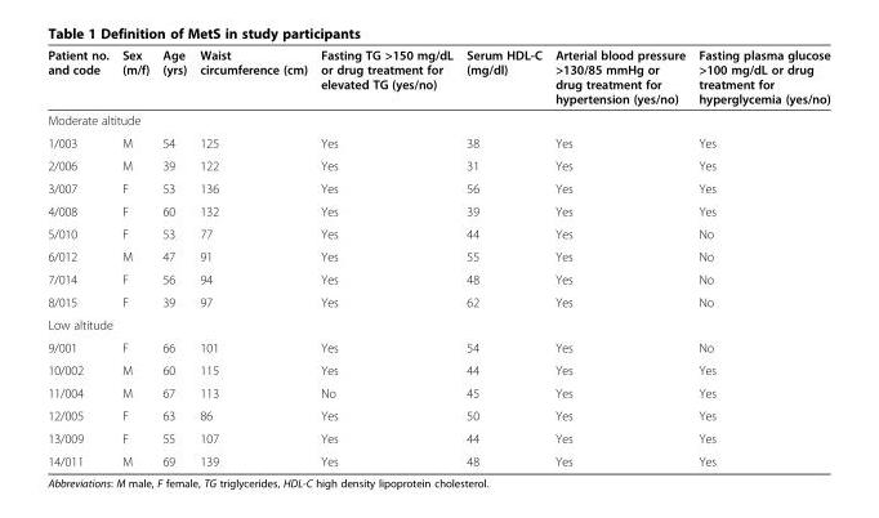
<table><thead><tr><td>Patient no. and code</td><td>Sex (m/f)</td><td>Age (yrs)</td><td>Waist circumference (cm)</td><td>Fasting TG &gt;150 mg/dL or drug treatment for elevated TG (yes/no)</td><td>Serum HDL-C (mg/dl)</td><td>Arterial blood pressure &gt;130/85 mmHg or drug treatment for hypertension (yes/no)</td><td>Fasting plasma glucose &gt;100 mg/dL or drug treatment for hyperglycemia (yes/no)</td></tr></thead><tbody><tr><td colspan="8">Moderate altitude</td></tr><tr><td>1/003</td><td>M</td><td>54</td><td>125</td><td>Yes</td><td>38</td><td>Yes</td><td>Yes</td></tr><tr><td>2/006</td><td>M</td><td>39</td><td>122</td><td>Yes</td><td>31</td><td>Yes</td><td>Yes</td></tr><tr><td>3/007</td><td>F</td><td>53</td><td>136</td><td>Yes</td><td>56</td><td>Yes</td><td>Yes</td></tr><tr><td>4/008</td><td>F</td><td>60</td><td>132</td><td>Yes</td><td>39</td><td>Yes</td><td>Yes</td></tr><tr><td>5/010</td><td>F</td><td>53</td><td>77</td><td>Yes</td><td>44</td><td>Yes</td><td>No</td></tr><tr><td>6/012</td><td>M</td><td>47</td><td>91</td><td>Yes</td><td>55</td><td>Yes</td><td>No</td></tr><tr><td>7/014</td><td>F</td><td>56</td><td>94</td><td>Yes</td><td>48</td><td>Yes</td><td>No</td></tr><tr><td>8/015</td><td>F</td><td>39</td><td>97</td><td>Yes</td><td>62</td><td>Yes</td><td>No</td></tr><tr><td colspan="8">Low altitude</td></tr><tr><td>9/001</td><td>F</td><td>66</td><td>101</td><td>Yes</td><td>54</td><td>Yes</td><td>No</td></tr><tr><td>10/002</td><td>M</td><td>60</td><td>115</td><td>Yes</td><td>44</td><td>Yes</td><td>Yes</td></tr><tr><td>11/004</td><td>M</td><td>67</td><td>113</td><td>No</td><td>45</td><td>Yes</td><td>Yes</td></tr><tr><td>12/005</td><td>F</td><td>63</td><td>86</td><td>Yes</td><td>50</td><td>Yes</td><td>Yes</td></tr><tr><td>13/009</td><td>F</td><td>55</td><td>107</td><td>Yes</td><td>44</td><td>Yes</td><td>Yes</td></tr><tr><td>14/011</td><td>M</td><td>69</td><td>139</td><td>Yes</td><td>48</td><td>Yes</td><td>Yes</td></tr></tbody></table>